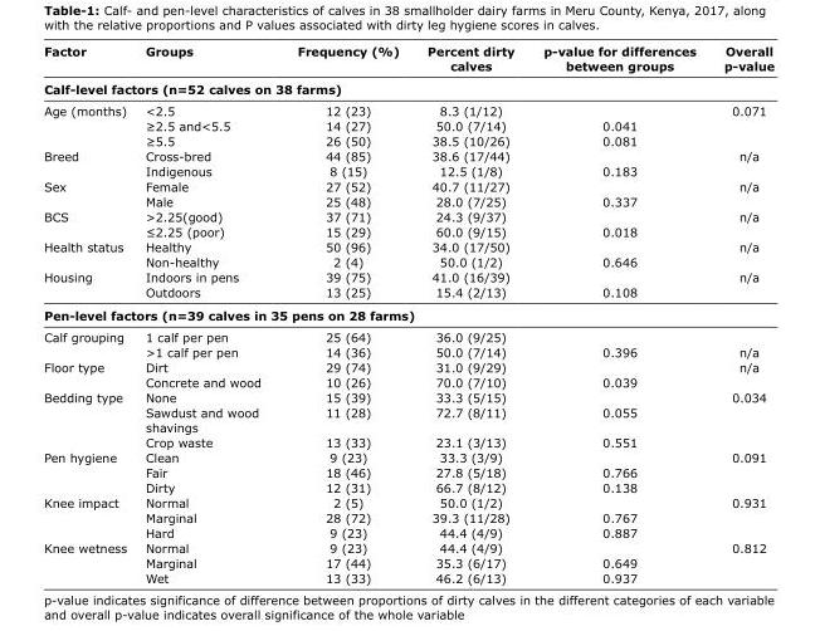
<table><thead><tr><td>Factor</td><td>Groups</td><td>Frequency (%)</td><td>Percent dirty calves</td><td>p-value for differences between groups</td><td>Overall p-value</td></tr><tr><td colspan="6">Calf-level factors (n=52 calves on 38 farms)</td></tr></thead><tbody><tr><td rowspan="3">Age (months)</td><td>&lt;2.5</td><td>12 (23)</td><td>8.3 (1/12)</td><td></td><td>0.071</td></tr><tr><td>≥2.5 and&lt;5.5</td><td>14 (27)</td><td>50.0 (7/14)</td><td>0.041</td><td></td></tr><tr><td>≥5.5</td><td>26 (50)</td><td>38.5 (10/26)</td><td>0.081</td><td></td></tr><tr><td rowspan="2">Breed</td><td>Cross-bred</td><td>44 (85)</td><td>38.6 (17/44)</td><td></td><td>n/a</td></tr><tr><td>Indigenous</td><td>8 (15)</td><td>12.5 (1/8)</td><td>0.183</td><td></td></tr><tr><td rowspan="2">Sex</td><td>Female</td><td>27 (52)</td><td>40.7 (11/27)</td><td></td><td>n/a</td></tr><tr><td>Male</td><td>25 (48)</td><td>28.0 (7/25)</td><td>0.337</td><td></td></tr><tr><td rowspan="2">BCS</td><td>&gt;2.25(good)</td><td>37 (71)</td><td>24.3 (9/37)</td><td></td><td>n/a</td></tr><tr><td>≤2.25 (poor)</td><td>15 (29)</td><td>60.0 (9/15)</td><td>0.018</td><td></td></tr><tr><td rowspan="2">Health status</td><td>Healthy</td><td>50 (96)</td><td>34.0 (17/50)</td><td></td><td>n/a</td></tr><tr><td>Non-healthy</td><td>2 (4)</td><td>50.0 (1/2)</td><td>0.646</td><td></td></tr><tr><td rowspan="2">Housing</td><td>Indoors in pens</td><td>39 (75)</td><td>41.0 (16/39)</td><td></td><td>n/a</td></tr><tr><td>Outdoors</td><td>13 (25)</td><td>15.4 (2/13)</td><td>0.108</td><td></td></tr><tr><td colspan="6">Pen-level factors (n=39 calves in 35 pens on 28 farms)</td></tr><tr><td rowspan="2">Calf grouping</td><td>1 calf per pen</td><td>25 (64)</td><td>36.0 (9/25)</td><td></td><td></td></tr><tr><td>&gt;1 calf per pen</td><td>14 (36)</td><td>50.0 (7/14)</td><td>0.396</td><td>n/a</td></tr><tr><td rowspan="2">Floor type</td><td>Dirt</td><td>29 (74)</td><td>31.0 (9/29)</td><td></td><td>n/a</td></tr><tr><td>Concrete and wood</td><td>10 (26)</td><td>70.0 (7/10)</td><td>0.039</td><td></td></tr><tr><td rowspan="3">Bedding type</td><td>None</td><td>15 (39)</td><td>33.3 (5/15)</td><td></td><td>0.034</td></tr><tr><td>Sawdust and wood shavings</td><td>11 (28)</td><td>72.7 (8/11)</td><td>0.055</td><td></td></tr><tr><td>Crop waste</td><td>13 (33)</td><td>23.1 (3/13)</td><td>0.551</td><td></td></tr><tr><td rowspan="3">Pen hygiene</td><td>Clean</td><td>9 (23)</td><td>33.3 (3/9)</td><td></td><td>0.091</td></tr><tr><td>Fair</td><td>18 (46)</td><td>27.8 (5/18)</td><td>0.766</td><td></td></tr><tr><td>Dirty</td><td>12 (31)</td><td>66.7 (8/12)</td><td>0.138</td><td></td></tr><tr><td rowspan="3">Knee impact</td><td>Normal</td><td>2 (5)</td><td>50.0 (1/2)</td><td></td><td>0.931</td></tr><tr><td>Marginal</td><td>28 (72)</td><td>39.3 (11/28)</td><td>0.767</td><td></td></tr><tr><td>Hard</td><td>9 (23)</td><td>44.4 (4/9)</td><td>0.887</td><td></td></tr><tr><td rowspan="3">Knee wetness</td><td>Normal</td><td>9 (23)</td><td>44.4 (4/9)</td><td></td><td>0.812</td></tr><tr><td>Marginal</td><td>17 (44)</td><td>35.3 (6/17)</td><td>0.649</td><td></td></tr><tr><td>Wet</td><td>13 (33)</td><td>46.2 (6/13)</td><td>0.937</td><td></td></tr></tbody></table>